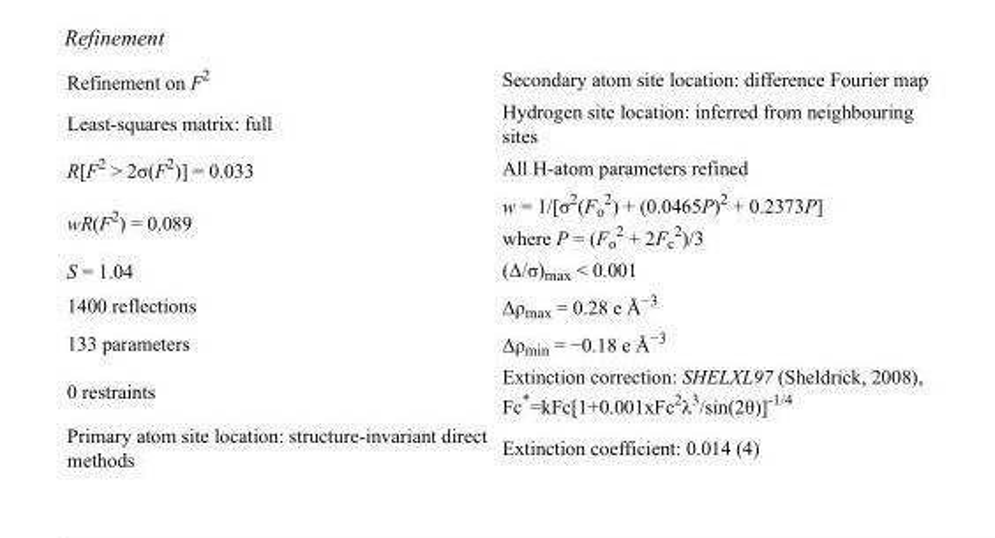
<table><tbody><tr><td>Refinement on F<sup>2</sup></td><td>Secondary atom site location: difference Fourier map</td></tr><tr><td>Least-squares matrix: full</td><td>Hydrogen site location: inferred from neighbouring sites</td></tr><tr><td>R[F<sup>2</sup> &gt; 2σ(F<sup>2</sup>)] = 0.033</td><td>All H-atom parameters refined</td></tr><tr><td>wR(F<sup>2</sup>) = 0.089</td><td>w = 1/[σ<sup>2</sup>(F<sub>o</sub> <sup>2</sup>) + (0.0465P)<sup>2</sup> + 0.2373P] where P = (F<sub>o</sub> <sup>2</sup> + 2F<sub>c</sub> <sup>2</sup>)/3</td></tr><tr><td>S = 1.04</td><td>(Δ/σ)<sub>max</sub> &lt; 0.001</td></tr><tr><td>1400 reflections</td><td>Δρ<sub>max</sub> = 0.28 e Å<sup>−3</sup></td></tr><tr><td>133 parameters</td><td>Δρ<sub>min</sub> = −0.18 e Å<sup>−3</sup></td></tr><tr><td>0 restraints</td><td>Extinction correction: SHELXL97 (Sheldrick, 2008), Fc*=kFc[1+0.001xFc<sup>2</sup>λ<sup>3</sup>/sin(2θ)]<sup>-1/4</sup></td></tr><tr><td>Primary atom site location: structure-invariant direct methods</td><td>Extinction coefficient: 0.014 (4)</td></tr></tbody></table>